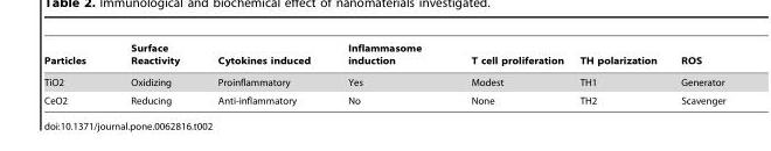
<table><thead><tr><td>Particles</td><td>Surface Reactivity</td><td>Cytokines induced</td><td>Inflammasome induction</td><td>T cell proliferation</td><td>TH polarization</td><td>ROS</td></tr></thead><tbody><tr><td>TiO2</td><td>Oxidizing</td><td>Proinflammatory</td><td>Yes</td><td>Modest</td><td>TH1</td><td>Generator</td></tr><tr><td>CeO2</td><td>Reducing</td><td>Anti-inflammatory</td><td>No</td><td>None</td><td>TH2</td><td>Scavenger</td></tr></tbody></table>